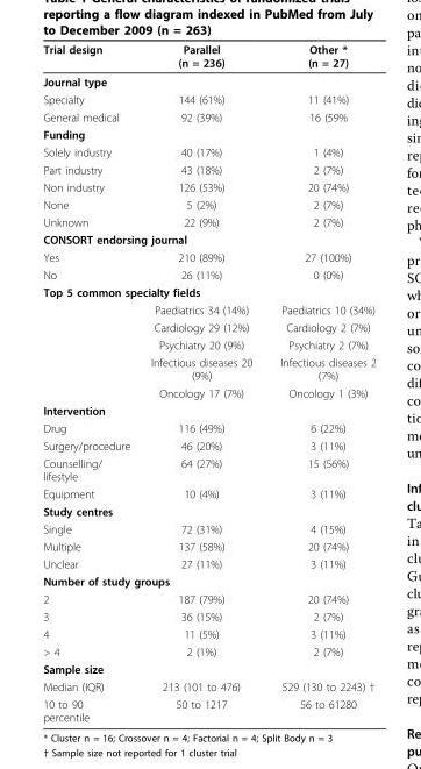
<table><thead><tr><td>Trial design</td><td>Parallel (n = 236)</td><td>Other * (n = 27)</td></tr></thead><tbody><tr><td colspan="3">Journal type</td></tr><tr><td>Specialty</td><td>144 (61%)</td><td>11 (41%)</td></tr><tr><td>General medical</td><td>92 (39%)</td><td>16 (59%</td></tr><tr><td colspan="3">Funding</td></tr><tr><td>Solely industry</td><td>40 (17%)</td><td>1 (4%)</td></tr><tr><td>Part industry</td><td>43 (18%)</td><td>2 (7%)</td></tr><tr><td>Non industry</td><td>126 (53%)</td><td>20 (74%)</td></tr><tr><td>None</td><td>5 (2%)</td><td>2 (7%)</td></tr><tr><td>Unknown</td><td>22 (9%)</td><td>2 (7%)</td></tr><tr><td colspan="3">CONSORT endorsing journal</td></tr><tr><td>Yes</td><td>210 (89%)</td><td>27 (100%)</td></tr><tr><td>No</td><td>26 (11%)</td><td>0 (0%)</td></tr><tr><td colspan="3">Top 5 common specialty fields</td></tr><tr><td></td><td>Paediatrics 34 (14%)</td><td>Paediatrics 10 (34%)</td></tr><tr><td></td><td>Cardiology 29 (12%)</td><td>Cardiology 2 (7%)</td></tr><tr><td></td><td>Psychiatry 20 (9%)</td><td>Psychiatry 2 (7%)</td></tr><tr><td></td><td>Infectious diseases 20 (9%)</td><td>Infectious diseases 2 (7%)</td></tr><tr><td></td><td>Oncology 17 (7%)</td><td>Oncology 1 (3%)</td></tr><tr><td colspan="3">Intervention</td></tr><tr><td>Drug</td><td>116 (49%)</td><td>6 (22%)</td></tr><tr><td>Surgery/procedure</td><td>46 (20%)</td><td>3 (11%)</td></tr><tr><td>Counselling/ lifestyle</td><td>64 (27%)</td><td>15 (56%)</td></tr><tr><td>Equipment</td><td>10 (4%)</td><td>3 (11%)</td></tr><tr><td colspan="3">Study centres</td></tr><tr><td>Single</td><td>72 (31%)</td><td>4 (15%)</td></tr><tr><td>Multiple</td><td>137 (58%)</td><td>20 (74%)</td></tr><tr><td>Unclear</td><td>27 (11%)</td><td>3 (11%)</td></tr><tr><td colspan="3">Number of study groups</td></tr><tr><td>2</td><td>187 (79%)</td><td>20 (74%)</td></tr><tr><td>3</td><td>36 (15%)</td><td>2 (7%)</td></tr><tr><td>4</td><td>11 (5%)</td><td>3 (11%)</td></tr><tr><td>&gt; 4</td><td>2 (1%)</td><td>2 (7%)</td></tr><tr><td colspan="3">Sample size</td></tr><tr><td>Median (IQR)</td><td>213 (101 to 476)</td><td>529 (130 to 2243) †</td></tr><tr><td>10 to 90 percentile</td><td>50 to 1217</td><td>56 to 61280</td></tr></tbody></table>